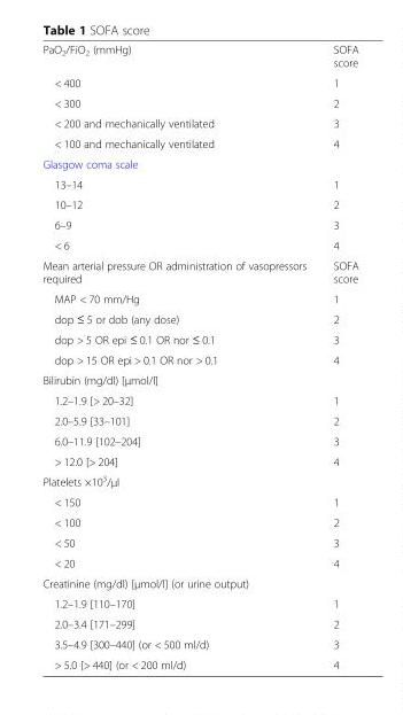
<table><tbody><tr><td>PaO<sub>2</sub>/FiO<sub>2</sub> (mmHg)</td><td>SOFA score</td></tr><tr><td>&lt; 400</td><td>1</td></tr><tr><td>&lt; 300</td><td>2</td></tr><tr><td>&lt; 200 and mechanically ventilated</td><td>3</td></tr><tr><td>&lt; 100 and mechanically ventilated</td><td>4</td></tr><tr><td colspan="2">Glasgow coma scale</td></tr><tr><td>13–14</td><td>1</td></tr><tr><td>10–12</td><td>2</td></tr><tr><td>6–9</td><td>3</td></tr><tr><td>&lt; 6</td><td>4</td></tr><tr><td>Mean arterial pressure OR administration of vasopressors required</td><td>SOFA score</td></tr><tr><td>MAP &lt; 70 mm/Hg</td><td>1</td></tr><tr><td>dop ≤ 5 or dob (any dose)</td><td>2</td></tr><tr><td>dop &gt; 5 OR epi ≤ 0.1 OR nor ≤ 0.1</td><td>3</td></tr><tr><td>dop &gt; 15 OR epi &gt; 0.1 OR nor &gt; 0.1</td><td>4</td></tr><tr><td colspan="2">Bilirubin (mg/dl) [μmol/l]</td></tr><tr><td>1.2–1.9 [&gt; 20–32]</td><td>1</td></tr><tr><td>2.0–5.9 [33–101]</td><td>2</td></tr><tr><td>6.0–11.9 [102–204]</td><td>3</td></tr><tr><td>&gt; 12.0 [&gt; 204]</td><td>4</td></tr><tr><td colspan="2">Platelets ×10<sup>3</sup>/μl</td></tr><tr><td>&lt; 150</td><td>1</td></tr><tr><td>&lt; 100</td><td>2</td></tr><tr><td>&lt; 50</td><td>3</td></tr><tr><td>&lt; 20</td><td>4</td></tr><tr><td colspan="2">Creatinine (mg/dl) [μmol/l] (or urine output)</td></tr><tr><td>1.2–1.9 [110–170]</td><td>1</td></tr><tr><td>2.0–3.4 [171–299]</td><td>2</td></tr><tr><td>3.5–4.9 [300–440] (or &lt; 500 ml/d)</td><td>3</td></tr><tr><td>&gt; 5.0 [&gt; 440] (or &lt; 200 ml/d)</td><td>4</td></tr></tbody></table>